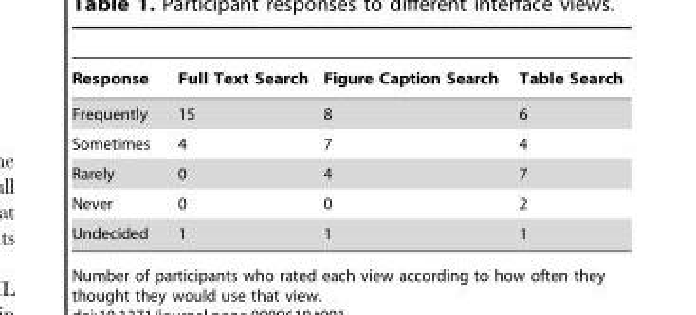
<table><thead><tr><td>Response</td><td>Full Text Search</td><td>Figure Caption Search</td><td>Table Search</td></tr></thead><tbody><tr><td>Frequently</td><td>15</td><td>8</td><td>6</td></tr><tr><td>Sometimes</td><td>4</td><td>7</td><td>4</td></tr><tr><td>Rarely</td><td>0</td><td>4</td><td>7</td></tr><tr><td>Never</td><td>0</td><td>0</td><td>2</td></tr><tr><td>Undecided</td><td>1</td><td>1</td><td>1</td></tr></tbody></table>